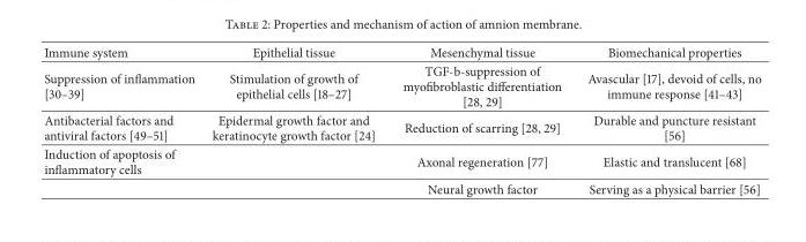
<table><thead><tr><td>Immune system</td><td>Epithelial tissue</td><td>Mesenchymal tissue</td><td>Biomechanical properties</td></tr></thead><tbody><tr><td>Suppression of inflammation [30–39]</td><td>Stimulation of growth of epithelial cells [18–27]</td><td>TGF-b-suppression of myofibroblastic differentiation [28, 29]</td><td>Avascular [17], devoid of cells, no immune response [41–43]</td></tr><tr><td>Antibacterial factors and antiviral factors [49–51]</td><td>Epidermal growth factor and keratinocyte growth factor [24]</td><td>Reduction of scarring [28, 29]</td><td>Durable and puncture resistant [56]</td></tr><tr><td rowspan="2">Induction of apoptosis of inflammatory cells</td><td></td><td>Axonal regeneration [77]</td><td>Elastic and translucent [68]</td></tr><tr><td></td><td>Neural growth factor</td><td>Serving as a physical barrier [56]</td></tr></tbody></table>